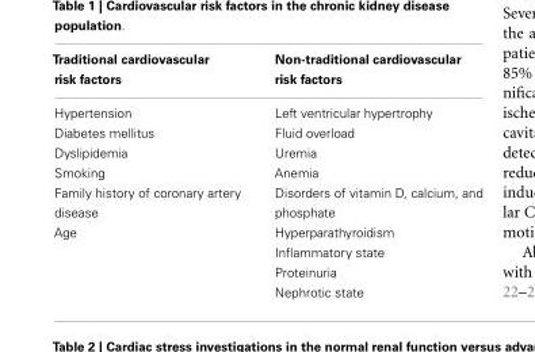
<table><thead><tr><td>Traditional cardiovascular risk factors</td><td>Non-traditional cardiovascular risk factors</td></tr></thead><tbody><tr><td>Hypertension</td><td>Left ventricular hypertrophy</td></tr><tr><td>Diabetes mellitus</td><td>Fluid overload</td></tr><tr><td>Dyslipidemia</td><td>Uremia</td></tr><tr><td>Smoking</td><td>Anemia</td></tr><tr><td>Family history of coronary artery disease</td><td>Disorders of vitamin D, calcium, and phosphate</td></tr><tr><td rowspan="4">Age</td><td>Hyperparathyroidism</td></tr><tr><td>Inflammatory state</td></tr><tr><td>Proteinuria</td></tr><tr><td>Nephrotic state</td></tr></tbody></table>